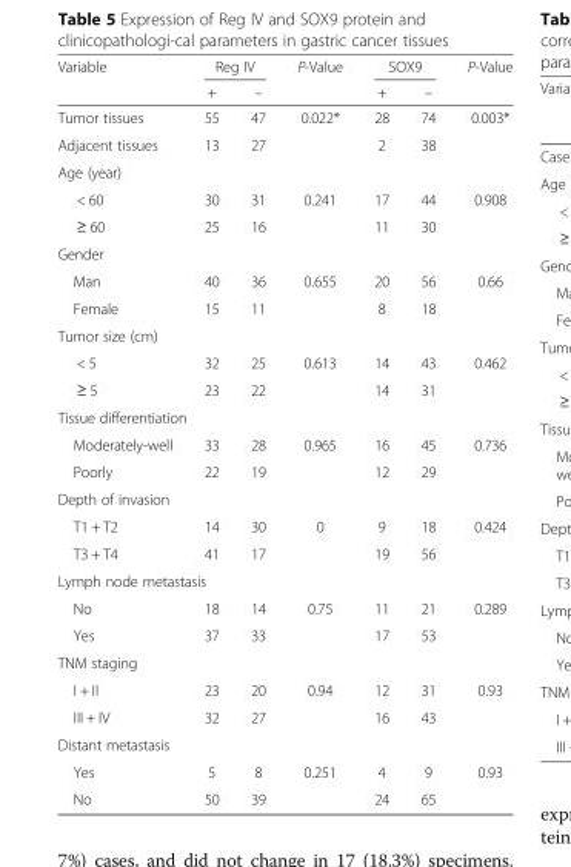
<table><thead><tr><td rowspan="2">Variable</td><td colspan="2">Reg IV</td><td rowspan="2">P-Value</td><td colspan="2">SOX9</td><td rowspan="2">P-Value</td></tr><tr><td>+</td><td>–</td><td>+</td><td>–</td></tr></thead><tbody><tr><td>Tumor tissues</td><td>55</td><td>47</td><td rowspan="2">0.022*</td><td>28</td><td>74</td><td rowspan="2">0.003*</td></tr><tr><td>Adjacent tissues</td><td>13</td><td>27</td><td>2</td><td>38</td></tr><tr><td colspan="7">Age (year)</td></tr><tr><td>&lt; 60</td><td>30</td><td>31</td><td rowspan="2">0.241</td><td>17</td><td>44</td><td rowspan="2">0.908</td></tr><tr><td>≥ 60</td><td>25</td><td>16</td><td>11</td><td>30</td></tr><tr><td colspan="7">Gender</td></tr><tr><td>Man</td><td>40</td><td>36</td><td rowspan="2">0.655</td><td>20</td><td>56</td><td rowspan="2">0.66</td></tr><tr><td>Female</td><td>15</td><td>11</td><td>8</td><td>18</td></tr><tr><td colspan="7">Tumor size (cm)</td></tr><tr><td>&lt; 5</td><td>32</td><td>25</td><td rowspan="2">0.613</td><td>14</td><td>43</td><td rowspan="2">0.462</td></tr><tr><td>≥ 5</td><td>23</td><td>22</td><td>14</td><td>31</td></tr><tr><td colspan="7">Tissue differentiation</td></tr><tr><td>Moderately-well</td><td>33</td><td>28</td><td rowspan="2">0.965</td><td>16</td><td>45</td><td rowspan="2">0.736</td></tr><tr><td>Poorly</td><td>22</td><td>19</td><td>12</td><td>29</td></tr><tr><td colspan="7">Depth of invasion</td></tr><tr><td>T1 + T2</td><td>14</td><td>30</td><td rowspan="2">0</td><td>9</td><td>18</td><td rowspan="2">0.424</td></tr><tr><td>T3 + T4</td><td>41</td><td>17</td><td>19</td><td>56</td></tr><tr><td colspan="7">Lymph node metastasis</td></tr><tr><td>No</td><td>18</td><td>14</td><td rowspan="2">0.75</td><td>11</td><td>21</td><td rowspan="2">0.289</td></tr><tr><td>Yes</td><td>37</td><td>33</td><td>17</td><td>53</td></tr><tr><td colspan="7">TNM staging</td></tr><tr><td>I + II</td><td>23</td><td>20</td><td rowspan="2">0.94</td><td>12</td><td>31</td><td rowspan="2">0.93</td></tr><tr><td>III + IV</td><td>32</td><td>27</td><td>16</td><td>43</td></tr><tr><td colspan="7">Distant metastasis</td></tr><tr><td>Yes</td><td>5</td><td>8</td><td rowspan="2">0.251</td><td>4</td><td>9</td><td rowspan="2">0.93</td></tr><tr><td>No</td><td>50</td><td>39</td><td>24</td><td>65</td></tr></tbody></table>